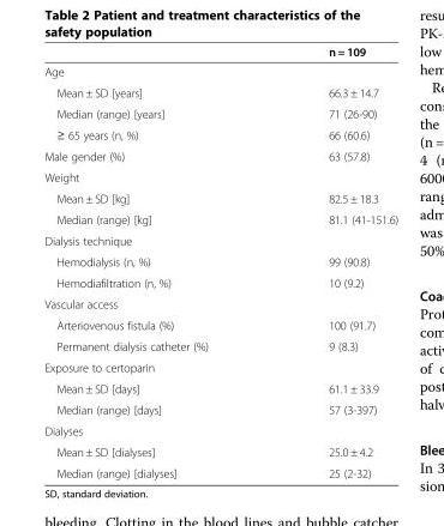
<table><thead><tr><td></td><td>n = 109</td></tr></thead><tbody><tr><td colspan="2">Age</td></tr><tr><td>Mean ± SD [years]</td><td>66.3 ± 14.7</td></tr><tr><td>Median (range) [years]</td><td>71 (26-90)</td></tr><tr><td>≥ 65 years (n, %)</td><td>66 (60.6)</td></tr><tr><td>Male gender (%)</td><td>63 (57.8)</td></tr><tr><td colspan="2">Weight</td></tr><tr><td>Mean ± SD [kg]</td><td>82.5 ± 18.3</td></tr><tr><td>Median (range) [kg]</td><td>81.1 (41-151.6)</td></tr><tr><td colspan="2">Dialysis technique</td></tr><tr><td>Hemodialysis (n, %)</td><td>99 (90.8)</td></tr><tr><td>Hemodiafiltration (n, %)</td><td>10 (9.2)</td></tr><tr><td colspan="2">Vascular access</td></tr><tr><td>Arteriovenous fistula (%)</td><td>100 (91.7)</td></tr><tr><td>Permanent dialysis catheter (%)</td><td>9 (8.3)</td></tr><tr><td colspan="2">Exposure to certoparin</td></tr><tr><td>Mean ± SD [days]</td><td>61.1 ± 33.9</td></tr><tr><td>Median (range) [days]</td><td>57 (3-397)</td></tr><tr><td colspan="2">Dialyses</td></tr><tr><td>Mean ± SD [dialyses]</td><td>25.0 ± 4.2</td></tr><tr><td>Median (range) [dialyses]</td><td>25 (2-32)</td></tr></tbody></table>